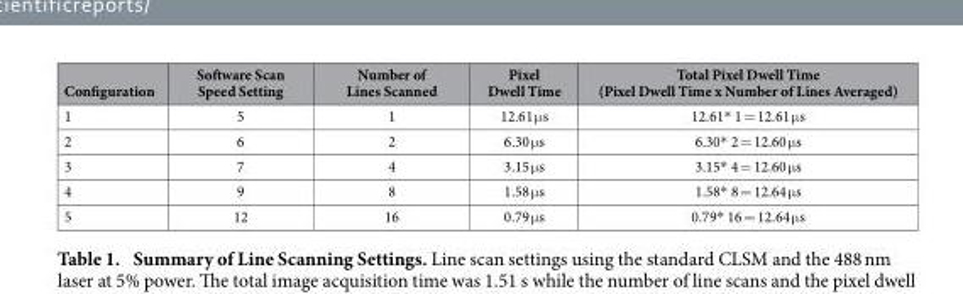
<table><thead><tr><td>Configuration</td><td>Software Scan Speed Setting</td><td>Number of Lines Scanned</td><td>Pixel Dwell Time</td><td>Total Pixel Dwell Time (Pixel Dwell Time x Number of Lines Averaged)</td></tr></thead><tbody><tr><td>1</td><td>5</td><td>1</td><td>12.61 μ s</td><td>12.61* 1 = 12.61 μ s</td></tr><tr><td>2</td><td>6</td><td>2</td><td>6.30 μ s</td><td>6.30* 2 = 12.60 μ s</td></tr><tr><td>3</td><td>7</td><td>4</td><td>3.15 μ s</td><td>3.15* 4 = 12.60 μ s</td></tr><tr><td>4</td><td>9</td><td>8</td><td>1.58 μ s</td><td>1.58* 8 = 12.64 μ s</td></tr><tr><td>5</td><td>12</td><td>16</td><td>0.79 μ s</td><td>0.79* 16 = 12.64 μ s</td></tr></tbody></table>